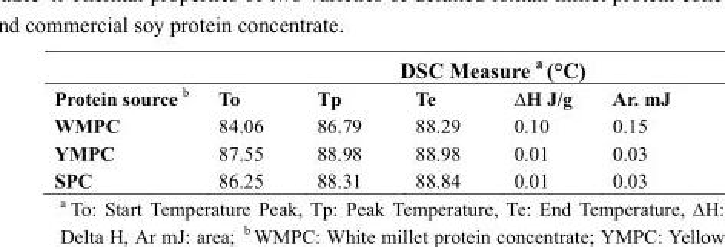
<table><thead><tr><td rowspan="2">Protein source <sup>b</sup></td><td colspan="5">DSC Measure a (°C)</td></tr><tr><td>To</td><td>Tp</td><td>Te</td><td>∆H J/g</td><td>Ar. mJ</td></tr></thead><tbody><tr><td>WMPC</td><td>84.06</td><td>86.79</td><td>88.29</td><td>0.10</td><td>0.15</td></tr><tr><td>YMPC</td><td>87.55</td><td>88.98</td><td>88.98</td><td>0.01</td><td>0.03</td></tr><tr><td>SPC</td><td>86.25</td><td>88.31</td><td>88.84</td><td>0.01</td><td>0.03</td></tr></tbody></table>